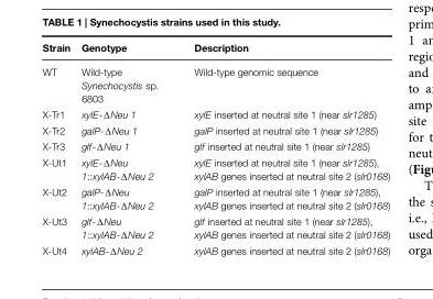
<table><thead><tr><td>Strain</td><td>Genotype</td><td>Description</td></tr></thead><tbody><tr><td>WT</td><td>Wild-type Synechocystis sp. 6803</td><td>Wild-type genomic sequence</td></tr><tr><td>X-Tr1</td><td>xylE-ΔNeu 1</td><td>xylE inserted at neutral site 1 (near slr1285)</td></tr><tr><td>X-Tr2</td><td>galP-ΔNeu 1</td><td>galP inserted at neutral site 1 (near slr1285)</td></tr><tr><td>X-Tr3</td><td>glf-ΔNeu 1</td><td>glf inserted at neutral site 1 (near slr1285)</td></tr><tr><td>X-Ut1</td><td>xylE-ΔNeu 1::xylAB-ΔNeu 2</td><td>xylE inserted at neutral site 1 (near slr1285), xylAB genes inserted at neutral site 2 (slr0168)</td></tr><tr><td>X-Ut2</td><td>galP-ΔNeu 1::xylAB-ΔNeu 2</td><td>galP inserted at neutral site 1 (near slr1285), xylAB genes inserted at neutral site 2 (slr0168)</td></tr><tr><td>X-Ut3</td><td>glf-ΔNeu 1::xylAB-ΔNeu 2</td><td>glf inserted at neutral site 1 (near slr1285), xylAB genes inserted at neutral site 2 (slr0168)</td></tr><tr><td>X-Ut4</td><td>xylAB-ΔNeu 2</td><td>xylAB genes inserted at neutral site 2 (slr0168)</td></tr></tbody></table>